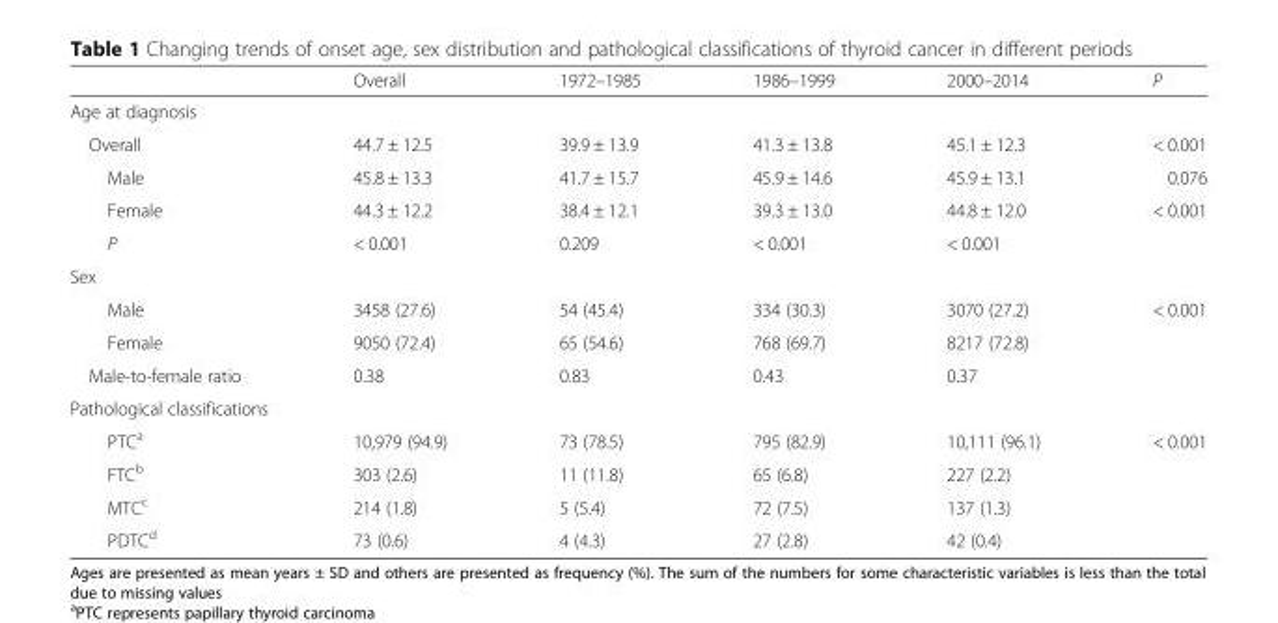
<table><thead><tr><td></td><td>Overall</td><td>1972–1985</td><td>1986–1999</td><td>2000–2014</td><td>P</td></tr></thead><tbody><tr><td colspan="6">Age at diagnosis</td></tr><tr><td>Overall</td><td>44.7 ± 12.5</td><td>39.9 ± 13.9</td><td>41.3 ± 13.8</td><td>45.1 ± 12.3</td><td>&lt; 0.001</td></tr><tr><td>Male</td><td>45.8 ± 13.3</td><td>41.7 ± 15.7</td><td>45.9 ± 14.6</td><td>45.9 ± 13.1</td><td>0.076</td></tr><tr><td>Female</td><td>44.3 ± 12.2</td><td>38.4 ± 12.1</td><td>39.3 ± 13.0</td><td>44.8 ± 12.0</td><td>&lt; 0.001</td></tr><tr><td>P</td><td>&lt; 0.001</td><td>0.209</td><td>&lt; 0.001</td><td>&lt; 0.001</td><td></td></tr><tr><td colspan="6">Sex</td></tr><tr><td>Male</td><td>3458 (27.6)</td><td>54 (45.4)</td><td>334 (30.3)</td><td>3070 (27.2)</td><td rowspan="2">&lt; 0.001</td></tr><tr><td>Female</td><td>9050 (72.4)</td><td>65 (54.6)</td><td>768 (69.7)</td><td>8217 (72.8)</td></tr><tr><td>Male-to-female ratio</td><td>0.38</td><td>0.83</td><td>0.43</td><td>0.37</td><td></td></tr><tr><td colspan="6">Pathological classifications</td></tr><tr><td>PTC<sup>a</sup></td><td>10,979 (94.9)</td><td>73 (78.5)</td><td>795 (82.9)</td><td>10,111 (96.1)</td><td rowspan="4">&lt; 0.001</td></tr><tr><td>FTC<sup>b</sup></td><td>303 (2.6)</td><td>11 (11.8)</td><td>65 (6.8)</td><td>227 (2.2)</td></tr><tr><td>MTC<sup>c</sup></td><td>214 (1.8)</td><td>5 (5.4)</td><td>72 (7.5)</td><td>137 (1.3)</td></tr><tr><td>PDTC<sup>d</sup></td><td>73 (0.6)</td><td>4 (4.3)</td><td>27 (2.8)</td><td>42 (0.4)</td></tr></tbody></table>